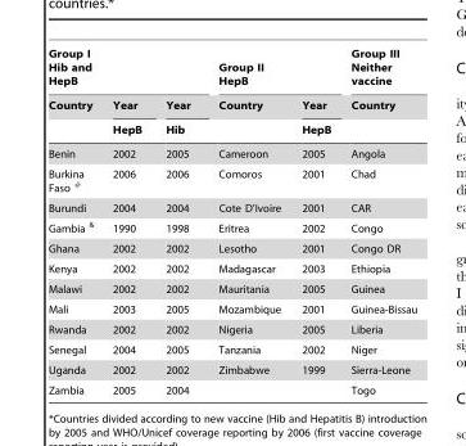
<table><thead><tr><td colspan="3">Group I Hib and HepB</td><td colspan="2">Group II HepB</td><td rowspan="3">Group III Neither vaccine Country</td></tr><tr><td rowspan="2">Country</td><td rowspan="2">Year HepB</td><td rowspan="2">Year Hib</td><td rowspan="2">Country</td><td rowspan="2">Year HepB</td></tr><tr></tr></thead><tbody><tr><td>Benin</td><td>2002</td><td>2005</td><td>Cameroon</td><td>2005</td><td>Angola</td></tr><tr><td>Burkina Faso #</td><td>2006</td><td>2006</td><td>Comoros</td><td>2001</td><td>Chad</td></tr><tr><td>Burundi</td><td>2004</td><td>2004</td><td>Cote D’Ivoire</td><td>2001</td><td>CAR</td></tr><tr><td>Gambia &amp;</td><td>1990</td><td>1998</td><td>Eritrea</td><td>2002</td><td>Congo</td></tr><tr><td>Ghana</td><td>2002</td><td>2002</td><td>Lesotho</td><td>2001</td><td>Congo DR</td></tr><tr><td>Kenya</td><td>2002</td><td>2002</td><td>Madagascar</td><td>2003</td><td>Ethiopia</td></tr><tr><td>Malawi</td><td>2002</td><td>2002</td><td>Mauritania</td><td>2005</td><td>Guinea</td></tr><tr><td>Mali</td><td>2003</td><td>2005</td><td>Mozambique</td><td>2001</td><td>Guinea-Bissau</td></tr><tr><td>Rwanda</td><td>2002</td><td>2002</td><td>Nigeria</td><td>2005</td><td>Liberia</td></tr><tr><td>Senegal</td><td>2004</td><td>2005</td><td>Tanzania</td><td>2002</td><td>Niger</td></tr><tr><td>Uganda</td><td>2002</td><td>2002</td><td>Zimbabwe</td><td>1999</td><td>Sierra-Leone</td></tr><tr><td>Zambia</td><td>2005</td><td>2004</td><td></td><td></td><td>Togo</td></tr></tbody></table>